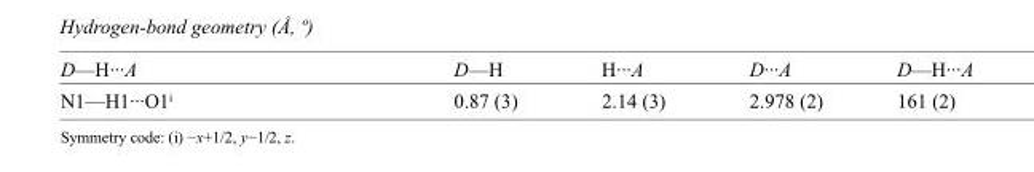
<table><tbody><tr><td>D—H···A</td><td>D—H</td><td>H···A</td><td>D···A</td><td>D—H···A</td></tr><tr><td>N1—H1···O1<sup>i</sup></td><td>0.87 (3)</td><td>2.14 (3)</td><td>2.978 (2)</td><td>161 (2)</td></tr></tbody></table>